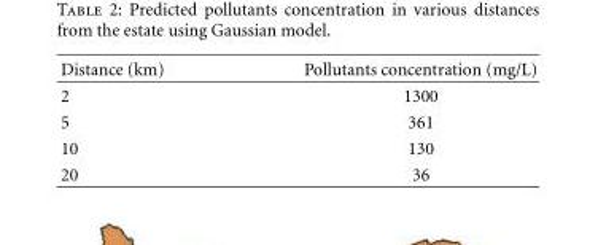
<table><thead><tr><td>Distance (km)</td><td>Pollutants concentration (mg/L)</td></tr></thead><tbody><tr><td>2</td><td>1300</td></tr><tr><td>5</td><td>361</td></tr><tr><td>10</td><td>130</td></tr><tr><td>20</td><td>36</td></tr></tbody></table>